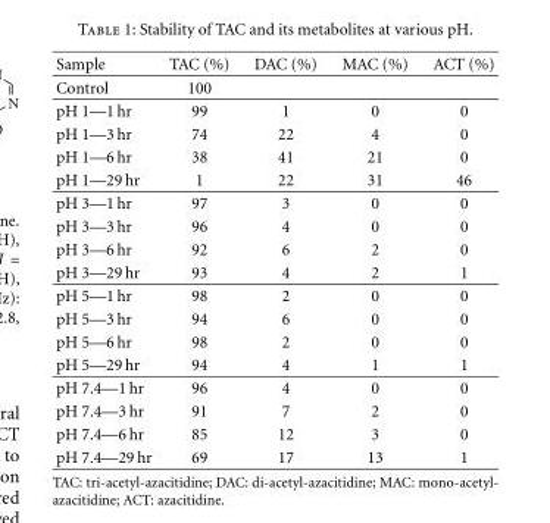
<table><thead><tr><td>Sample</td><td>TAC (%)</td><td>DAC (%)</td><td>MAC (%)</td><td>ACT (%)</td></tr></thead><tbody><tr><td>Control</td><td>100</td><td></td><td></td><td></td></tr><tr><td>pH 1—1 hr</td><td>99</td><td>1</td><td>0</td><td>0</td></tr><tr><td>pH 1—3 hr</td><td>74</td><td>22</td><td>4</td><td>0</td></tr><tr><td>pH 1—6 hr</td><td>38</td><td>41</td><td>21</td><td>0</td></tr><tr><td>pH 1—29 hr</td><td>1</td><td>22</td><td>31</td><td>46</td></tr><tr><td>pH 3—1 hr</td><td>97</td><td>3</td><td>0</td><td>0</td></tr><tr><td>pH 3—3 hr</td><td>96</td><td>4</td><td>0</td><td>0</td></tr><tr><td>pH 3—6 hr</td><td>92</td><td>6</td><td>2</td><td>0</td></tr><tr><td>pH 3—29 hr</td><td>93</td><td>4</td><td>2</td><td>1</td></tr><tr><td>pH 5—1 hr</td><td>98</td><td>2</td><td>0</td><td>0</td></tr><tr><td>pH 5—3 hr</td><td>94</td><td>6</td><td>0</td><td>0</td></tr><tr><td>pH 5—6 hr</td><td>98</td><td>2</td><td>0</td><td>0</td></tr><tr><td>pH 5—29 hr</td><td>94</td><td>4</td><td>1</td><td>1</td></tr><tr><td>pH 7.4—1 hr</td><td>96</td><td>4</td><td>0</td><td>0</td></tr><tr><td>pH 7.4—3 hr</td><td>91</td><td>7</td><td>2</td><td>0</td></tr><tr><td>pH 7.4—6 hr</td><td>85</td><td>12</td><td>3</td><td>0</td></tr><tr><td>pH 7.4—29 hr</td><td>69</td><td>17</td><td>13</td><td>1</td></tr></tbody></table>